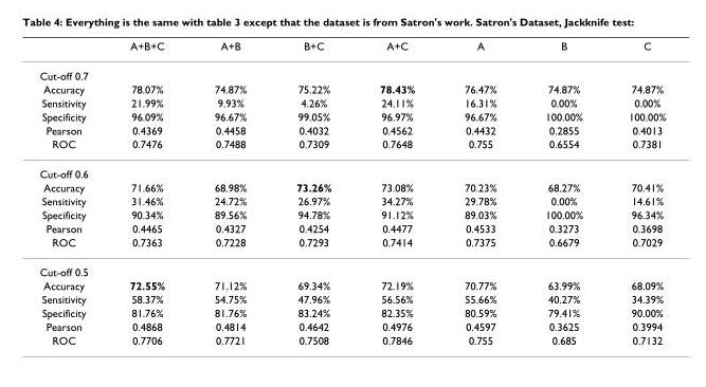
<table><thead><tr><td></td><td>A+B+C</td><td>A+B</td><td>B+C</td><td>A+C</td><td>A</td><td>B</td><td>C</td></tr></thead><tbody><tr><td colspan="8">Cut-off 0.7</td></tr><tr><td>Accuracy</td><td>78.07%</td><td>74.87%</td><td>75.22%</td><td>78.43%</td><td>76.47%</td><td>74.87%</td><td>74.87%</td></tr><tr><td>Sensitivity</td><td>21.99%</td><td>9.93%</td><td>4.26%</td><td>24.11%</td><td>16.31%</td><td>0.00%</td><td>0.00%</td></tr><tr><td>Specificity</td><td>96.09%</td><td>96.67%</td><td>99.05%</td><td>96.97%</td><td>96.67%</td><td>100.00%</td><td>100.00%</td></tr><tr><td>Pearson</td><td>0.4369</td><td>0.4458</td><td>0.4032</td><td>0.4562</td><td>0.4432</td><td>0.2855</td><td>0.4013</td></tr><tr><td>ROC</td><td>0.7476</td><td>0.7488</td><td>0.7309</td><td>0.7648</td><td>0.755</td><td>0.6554</td><td>0.7381</td></tr><tr><td colspan="8">Cut-off 0.6</td></tr><tr><td>Accuracy</td><td>71.66%</td><td>68.98%</td><td>73.26%</td><td>73.08%</td><td>70.23%</td><td>68.27%</td><td>70.41%</td></tr><tr><td>Sensitivity</td><td>31.46%</td><td>24.72%</td><td>26.97%</td><td>34.27%</td><td>29.78%</td><td>0.00%</td><td>14.61%</td></tr><tr><td>Specificity</td><td>90.34%</td><td>89.56%</td><td>94.78%</td><td>91.12%</td><td>89.03%</td><td>100.00%</td><td>96.34%</td></tr><tr><td>Pearson</td><td>0.4465</td><td>0.4327</td><td>0.4254</td><td>0.4477</td><td>0.4533</td><td>0.3273</td><td>0.3698</td></tr><tr><td>ROC</td><td>0.7363</td><td>0.7228</td><td>0.7293</td><td>0.7414</td><td>0.7375</td><td>0.6679</td><td>0.7029</td></tr><tr><td colspan="8">Cut-off 0.5</td></tr><tr><td>Accuracy</td><td>72.55%</td><td>71.12%</td><td>69.34%</td><td>72.19%</td><td>70.77%</td><td>63.99%</td><td>68.09%</td></tr><tr><td>Sensitivity</td><td>58.37%</td><td>54.75%</td><td>47.96%</td><td>56.56%</td><td>55.66%</td><td>40.27%</td><td>34.39%</td></tr><tr><td>Specificity</td><td>81.76%</td><td>81.76%</td><td>83.24%</td><td>82.35%</td><td>80.59%</td><td>79.41%</td><td>90.00%</td></tr><tr><td>Pearson</td><td>0.4868</td><td>0.4814</td><td>0.4642</td><td>0.4976</td><td>0.4597</td><td>0.3625</td><td>0.3994</td></tr><tr><td>ROC</td><td>0.7706</td><td>0.7721</td><td>0.7508</td><td>0.7846</td><td>0.755</td><td>0.685</td><td>0.7132</td></tr></tbody></table>